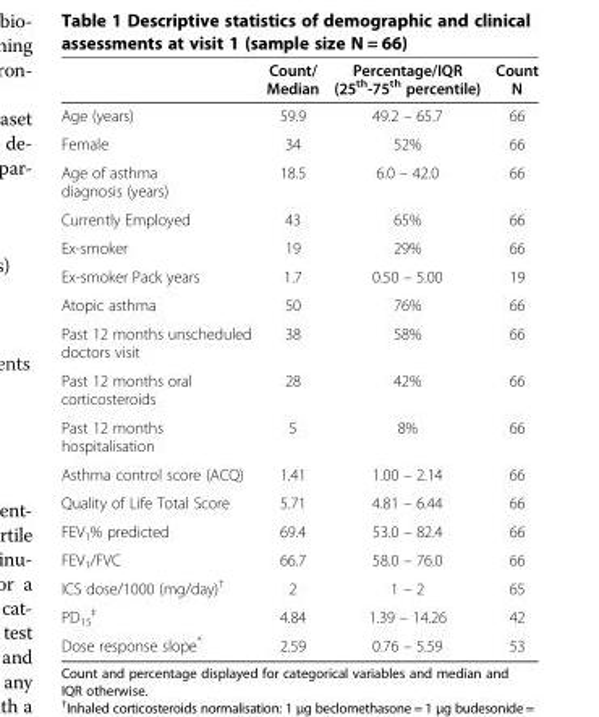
<table><thead><tr><td></td><td>Count/ Median</td><td>Percentage/IQR (25<sup>th</sup>-75<sup>th</sup> percentile)</td><td>Count N</td></tr></thead><tbody><tr><td>Age (years)</td><td>59.9</td><td>49.2 – 65.7</td><td>66</td></tr><tr><td>Female</td><td>34</td><td>52%</td><td>66</td></tr><tr><td>Age of asthma diagnosis (years)</td><td>18.5</td><td>6.0 – 42.0</td><td>66</td></tr><tr><td>Currently Employed</td><td>43</td><td>65%</td><td>66</td></tr><tr><td>Ex-smoker</td><td>19</td><td>29%</td><td>66</td></tr><tr><td>Ex-smoker Pack years</td><td>1.7</td><td>0.50 – 5.00</td><td>19</td></tr><tr><td>Atopic asthma</td><td>50</td><td>76%</td><td>66</td></tr><tr><td>Past 12 months unscheduled doctors visit</td><td>38</td><td>58%</td><td>66</td></tr><tr><td>Past 12 months oral corticosteroids</td><td>28</td><td>42%</td><td>66</td></tr><tr><td>Past 12 months hospitalisation</td><td>5</td><td>8%</td><td>66</td></tr><tr><td>Asthma control score (ACQ)</td><td>1.41</td><td>1.00 – 2.14</td><td>66</td></tr><tr><td>Quality of Life Total Score</td><td>5.71</td><td>4.81 – 6.44</td><td>66</td></tr><tr><td>FEV<sub>1</sub>% predicted</td><td>69.4</td><td>53.0 – 82.4</td><td>66</td></tr><tr><td>FEV<sub>1</sub>/FVC</td><td>66.7</td><td>58.0 – 76.0</td><td>66</td></tr><tr><td>ICS dose/1000 (mg/day)<sup>†</sup></td><td>2</td><td>1 – 2</td><td>65</td></tr><tr><td>PD<sub>15</sub> <sup>‡</sup></td><td>4.84</td><td>1.39 – 14.26</td><td>42</td></tr><tr><td>Dose response slope*</td><td>2.59</td><td>0.76 – 5.59</td><td>53</td></tr></tbody></table>